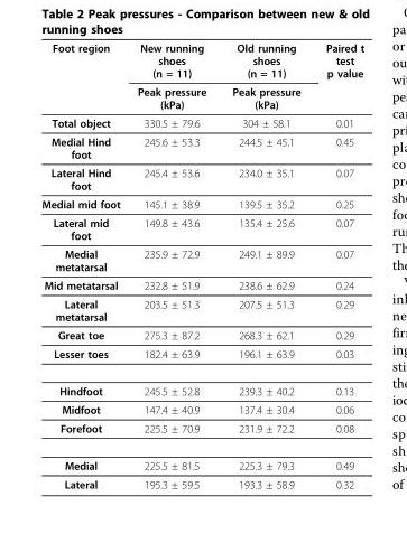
<table><thead><tr><td rowspan="2">Foot region</td><td rowspan="2">New running shoes (n = 11) Peak pressure (kPa)</td><td rowspan="2">Old running shoes (n = 11) Peak pressure (kPa)</td><td rowspan="2">Paired t test p value</td></tr><tr></tr></thead><tbody><tr><td>Total object</td><td>330.5 ± 79.6</td><td>304 ± 58.1</td><td>0.01</td></tr><tr><td>Medial Hind foot</td><td>245.6 ± 53.3</td><td>244.5 ± 45.1</td><td>0.45</td></tr><tr><td>Lateral Hind foot</td><td>245.4 ± 53.6</td><td>234.0 ± 35.1</td><td>0.07</td></tr><tr><td>Medial mid foot</td><td>145.1 ± 38.9</td><td>139.5 ± 35.2</td><td>0.25</td></tr><tr><td>Lateral mid foot</td><td>149.8 ± 43.6</td><td>135.4 ± 25.6</td><td>0.07</td></tr><tr><td>Medial metatarsal</td><td>235.9 ± 72.9</td><td>249.1 ± 89.9</td><td>0.07</td></tr><tr><td>Mid metatarsal</td><td>232.8 ± 51.9</td><td>238.6 ± 62.9</td><td>0.24</td></tr><tr><td>Lateral metatarsal</td><td>203.5 ± 51.3</td><td>207.5 ± 51.3</td><td>0.29</td></tr><tr><td>Great toe</td><td>275.3 ± 87.2</td><td>268.3 ± 62.1</td><td>0.29</td></tr><tr><td>Lesser toes</td><td>182.4 ± 63.9</td><td>196.1 ± 63.9</td><td>0.03</td></tr><tr><td>Hindfoot</td><td>245.5 ± 52.8</td><td>239.3 ± 40.2</td><td>0.13</td></tr><tr><td>Midfoot</td><td>147.4 ± 40.9</td><td>137.4 ± 30.4</td><td>0.06</td></tr><tr><td>Forefoot</td><td>225.5 ± 70.9</td><td>231.9 ± 72.2</td><td>0.08</td></tr><tr><td>Medial</td><td>225.5 ± 81.5</td><td>225.3 ± 79.3</td><td>0.49</td></tr><tr><td>Lateral</td><td>195.3 ± 59.5</td><td>193.3 ± 58.9</td><td>0.32</td></tr></tbody></table>